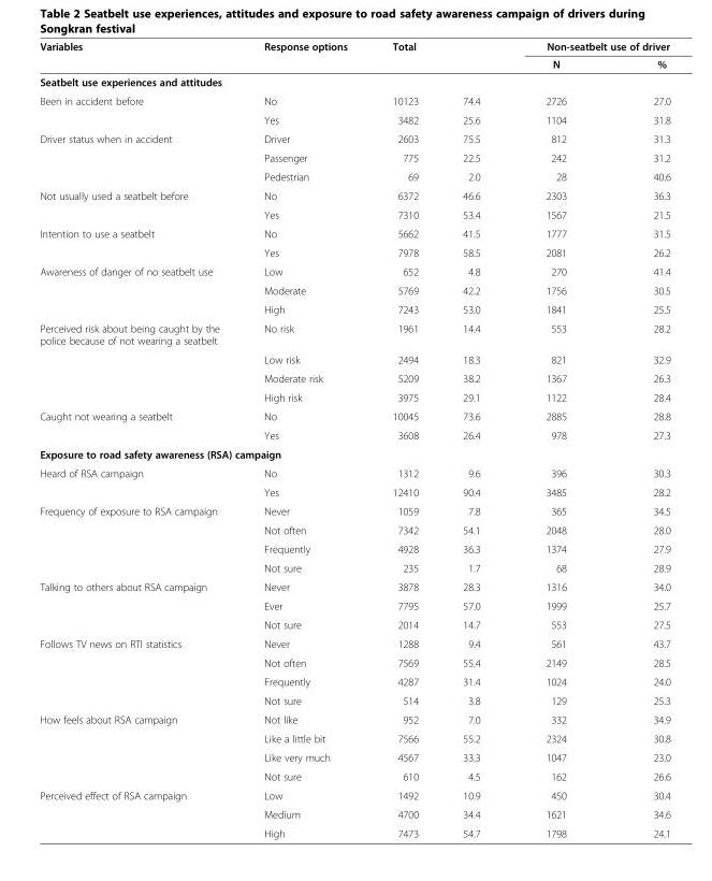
<table><thead><tr><td rowspan="2">Variables</td><td rowspan="2">Response options</td><td rowspan="2">Total</td><td rowspan="2"></td><td colspan="2">Non-seatbelt use of driver</td></tr><tr><td>N</td><td>%</td></tr></thead><tbody><tr><td colspan="6">Seatbelt use experiences and attitudes</td></tr><tr><td rowspan="2">Been in accident before</td><td>No</td><td>10123</td><td>74.4</td><td>2726</td><td>27.0</td></tr><tr><td>Yes</td><td>3482</td><td>25.6</td><td>1104</td><td>31.8</td></tr><tr><td rowspan="3">Driver status when in accident</td><td>Driver</td><td>2603</td><td>75.5</td><td>812</td><td>31.3</td></tr><tr><td>Passenger</td><td>775</td><td>22.5</td><td>242</td><td>31.2</td></tr><tr><td>Pedestrian</td><td>69</td><td>2.0</td><td>28</td><td>40.6</td></tr><tr><td rowspan="2">Not usually used a seatbelt before</td><td>No</td><td>6372</td><td>46.6</td><td>2303</td><td>36.3</td></tr><tr><td>Yes</td><td>7310</td><td>53.4</td><td>1567</td><td>21.5</td></tr><tr><td rowspan="2">Intention to use a seatbelt</td><td>No</td><td>5662</td><td>41.5</td><td>1777</td><td>31.5</td></tr><tr><td>Yes</td><td>7978</td><td>58.5</td><td>2081</td><td>26.2</td></tr><tr><td rowspan="3">Awareness of danger of no seatbelt use</td><td>Low</td><td>652</td><td>4.8</td><td>270</td><td>41.4</td></tr><tr><td>Moderate</td><td>5769</td><td>42.2</td><td>1756</td><td>30.5</td></tr><tr><td>High</td><td>7243</td><td>53.0</td><td>1841</td><td>25.5</td></tr><tr><td rowspan="4">Perceived risk about being caught by the police because of not wearing a seatbelt</td><td>No risk</td><td>1961</td><td>14.4</td><td>553</td><td>28.2</td></tr><tr><td>Low risk</td><td>2494</td><td>18.3</td><td>821</td><td>32.9</td></tr><tr><td>Moderate risk</td><td>5209</td><td>38.2</td><td>1367</td><td>26.3</td></tr><tr><td>High risk</td><td>3975</td><td>29.1</td><td>1122</td><td>28.4</td></tr><tr><td rowspan="2">Caught not wearing a seatbelt</td><td>No</td><td>10045</td><td>73.6</td><td>2885</td><td>28.8</td></tr><tr><td>Yes</td><td>3608</td><td>26.4</td><td>978</td><td>27.3</td></tr><tr><td colspan="6">Exposure to road safety awareness (RSA) campaign</td></tr><tr><td rowspan="2">Heard of RSA campaign</td><td>No</td><td>1312</td><td>9.6</td><td>396</td><td>30.3</td></tr><tr><td>Yes</td><td>12410</td><td>90.4</td><td>3485</td><td>28.2</td></tr><tr><td rowspan="4">Frequency of exposure to RSA campaign</td><td>Never</td><td>1059</td><td>7.8</td><td>365</td><td>34.5</td></tr><tr><td>Not often</td><td>7342</td><td>54.1</td><td>2048</td><td>28.0</td></tr><tr><td>Frequently</td><td>4928</td><td>36.3</td><td>1374</td><td>27.9</td></tr><tr><td>Not sure</td><td>235</td><td>1.7</td><td>68</td><td>28.9</td></tr><tr><td rowspan="3">Talking to others about RSA campaign</td><td>Never</td><td>3878</td><td>28.3</td><td>1316</td><td>34.0</td></tr><tr><td>Ever</td><td>7795</td><td>57.0</td><td>1999</td><td>25.7</td></tr><tr><td>Not sure</td><td>2014</td><td>14.7</td><td>553</td><td>27.5</td></tr><tr><td rowspan="4">Follows TV news on RTI statistics</td><td>Never</td><td>1288</td><td>9.4</td><td>561</td><td>43.7</td></tr><tr><td>Not often</td><td>7569</td><td>55.4</td><td>2149</td><td>28.5</td></tr><tr><td>Frequently</td><td>4287</td><td>31.4</td><td>1024</td><td>24.0</td></tr><tr><td>Not sure</td><td>514</td><td>3.8</td><td>129</td><td>25.3</td></tr><tr><td rowspan="4">How feels about RSA campaign</td><td>Not like</td><td>952</td><td>7.0</td><td>332</td><td>34.9</td></tr><tr><td>Like a little bit</td><td>7566</td><td>55.2</td><td>2324</td><td>30.8</td></tr><tr><td>Like very much</td><td>4567</td><td>33.3</td><td>1047</td><td>23.0</td></tr><tr><td>Not sure</td><td>610</td><td>4.5</td><td>162</td><td>26.6</td></tr><tr><td rowspan="3">Perceived effect of RSA campaign</td><td>Low</td><td>1492</td><td>10.9</td><td>450</td><td>30.4</td></tr><tr><td>Medium</td><td>4700</td><td>34.4</td><td>1621</td><td>34.6</td></tr><tr><td>High</td><td>7473</td><td>54.7</td><td>1798</td><td>24.1</td></tr></tbody></table>